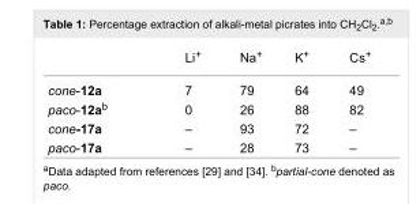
<table><thead><tr><td></td><td>Li<sup>+</sup></td><td>Na<sup>+</sup></td><td>K<sup>+</sup></td><td>Cs<sup>+</sup></td></tr></thead><tbody><tr><td>cone-12a</td><td>7</td><td>79</td><td>64</td><td>49</td></tr><tr><td>paco-12a<sup>b</sup></td><td>0</td><td>26</td><td>88</td><td>82</td></tr><tr><td>cone-17a</td><td>–</td><td>93</td><td>72</td><td>–</td></tr><tr><td>paco-17a</td><td>–</td><td>28</td><td>73</td><td>–</td></tr></tbody></table>